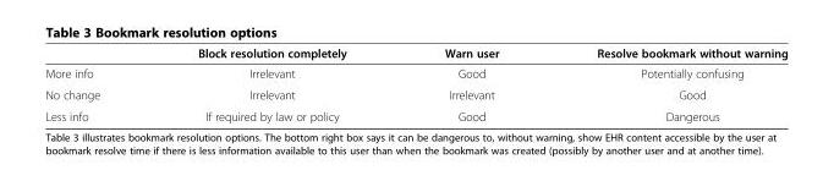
<table><thead><tr><td></td><td>Block resolution completely</td><td>Warn user</td><td>Resolve bookmark without warning</td></tr></thead><tbody><tr><td>More info</td><td>Irrelevant</td><td>Good</td><td>Potentially confusing</td></tr><tr><td>No change</td><td>Irrelevant</td><td>Irrelevant</td><td>Good</td></tr><tr><td>Less info</td><td>If required by law or policy</td><td>Good</td><td>Dangerous</td></tr></tbody></table>